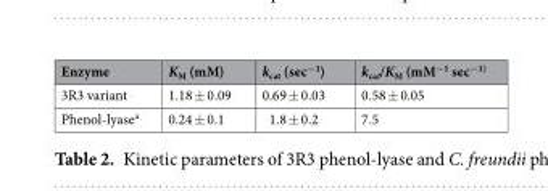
<table><thead><tr><td>Enzyme</td><td>K<sub>M</sub> (mM)</td><td>k<sub>cat</sub> (sec<sup>−1</sup>)</td><td>k<sub>cat</sub>/K<sub>M</sub> (mM<sup>−1</sup> sec<sup>−1)</sup></td></tr></thead><tbody><tr><td>3R3 variant</td><td>1.18 ± 0.09</td><td>0.69 ± 0.03</td><td>0.58 ± 0.05</td></tr><tr><td>Phenol-lyase<sup>a</sup></td><td>0.24 ± 0.1</td><td>1.8 ± 0.2</td><td>7.5</td></tr></tbody></table>